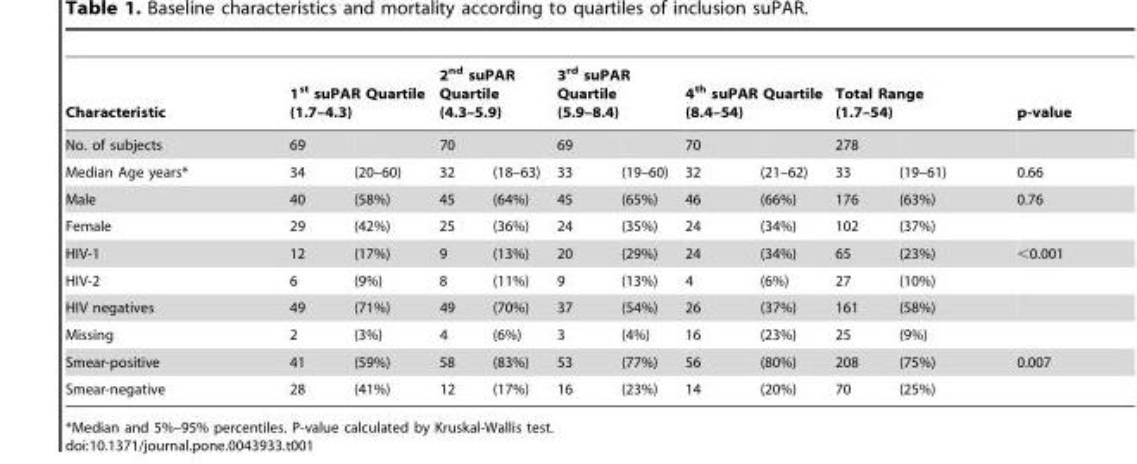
<table><thead><tr><td rowspan="2">Characteristic No. of subjects</td><td colspan="2">1<sup>st</sup> suPAR Quartile (1.7–4.3)</td><td colspan="2">2<sup>nd</sup> suPAR Quartile (4.3–5.9)</td><td colspan="2">3<sup>rd</sup> suPAR Quartile (5.9–8.4)</td><td colspan="2">4<sup>th</sup> suPAR Quartile (8.4–54)</td><td colspan="2">Total Range (1.7–54)</td><td rowspan="2">p-value</td></tr><tr><td>69</td><td></td><td>70</td><td></td><td>69</td><td></td><td>70</td><td></td><td>278</td><td></td></tr></thead><tbody><tr><td>Median Age years*</td><td>34</td><td>(20–60)</td><td>32</td><td>(18–63)</td><td>33</td><td>(19–60)</td><td>32</td><td>(21–62)</td><td>33</td><td>(19–61)</td><td>0.66</td></tr><tr><td>Male</td><td>40</td><td>(58%)</td><td>45</td><td>(64%)</td><td>45</td><td>(65%)</td><td>46</td><td>(66%)</td><td>176</td><td>(63%)</td><td>0.76</td></tr><tr><td>Female</td><td>29</td><td>(42%)</td><td>25</td><td>(36%)</td><td>24</td><td>(35%)</td><td>24</td><td>(34%)</td><td>102</td><td>(37%)</td><td></td></tr><tr><td>HIV-1</td><td>12</td><td>(17%)</td><td>9</td><td>(13%)</td><td>20</td><td>(29%)</td><td>24</td><td>(34%)</td><td>65</td><td>(23%)</td><td>&lt;0.001</td></tr><tr><td>HIV-2</td><td>6</td><td>(9%)</td><td>8</td><td>(11%)</td><td>9</td><td>(13%)</td><td>4</td><td>(6%)</td><td>27</td><td>(10%)</td><td></td></tr><tr><td>HIV negatives</td><td>49</td><td>(71%)</td><td>49</td><td>(70%)</td><td>37</td><td>(54%)</td><td>26</td><td>(37%)</td><td>161</td><td>(58%)</td><td></td></tr><tr><td>Missing</td><td>2</td><td>(3%)</td><td>4</td><td>(6%)</td><td>3</td><td>(4%)</td><td>16</td><td>(23%)</td><td>25</td><td>(9%)</td><td></td></tr><tr><td>Smear-positive</td><td>41</td><td>(59%)</td><td>58</td><td>(83%)</td><td>53</td><td>(77%)</td><td>56</td><td>(80%)</td><td>208</td><td>(75%)</td><td>0.007</td></tr><tr><td>Smear-negative</td><td>28</td><td>(41%)</td><td>12</td><td>(17%)</td><td>16</td><td>(23%)</td><td>14</td><td>(20%)</td><td>70</td><td>(25%)</td><td></td></tr></tbody></table>